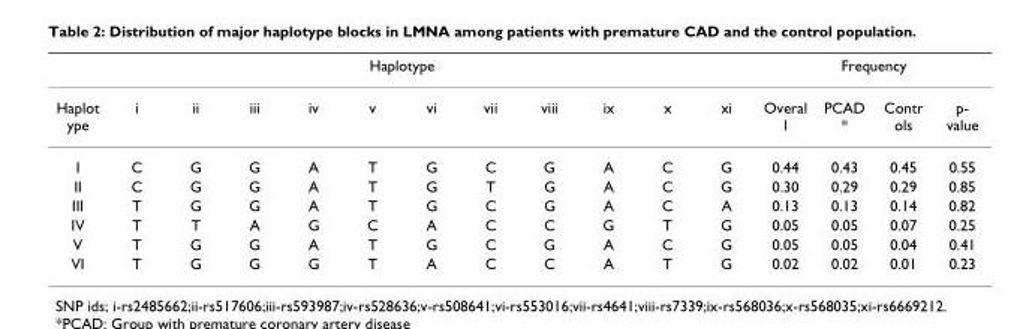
<table><thead><tr><td colspan="12">Haplotype</td><td colspan="4">Frequency</td></tr><tr><td>Haplot ype</td><td>i</td><td>ii</td><td>iii</td><td>iv</td><td>v</td><td>vi</td><td>vii</td><td>viii</td><td>ix</td><td>x</td><td>xi</td><td>Overal l</td><td>PCAD *</td><td>Contr ols</td><td>p- value</td></tr></thead><tbody><tr><td>I</td><td>C</td><td>G</td><td>G</td><td>A</td><td>T</td><td>G</td><td>C</td><td>G</td><td>A</td><td>C</td><td>G</td><td>0.44</td><td>0.43</td><td>0.45</td><td>0.55</td></tr><tr><td>II</td><td>C</td><td>G</td><td>G</td><td>A</td><td>T</td><td>G</td><td>T</td><td>G</td><td>A</td><td>C</td><td>G</td><td>0.30</td><td>0.29</td><td>0.29</td><td>0.85</td></tr><tr><td>III</td><td>T</td><td>G</td><td>G</td><td>A</td><td>T</td><td>G</td><td>C</td><td>G</td><td>A</td><td>C</td><td>A</td><td>0.13</td><td>0.13</td><td>0.14</td><td>0.82</td></tr><tr><td>IV</td><td>T</td><td>T</td><td>A</td><td>G</td><td>C</td><td>A</td><td>C</td><td>C</td><td>G</td><td>T</td><td>G</td><td>0.05</td><td>0.05</td><td>0.07</td><td>0.25</td></tr><tr><td>V</td><td>T</td><td>G</td><td>G</td><td>A</td><td>T</td><td>G</td><td>C</td><td>G</td><td>A</td><td>C</td><td>G</td><td>0.05</td><td>0.05</td><td>0.04</td><td>0.41</td></tr><tr><td>VI</td><td>T</td><td>G</td><td>G</td><td>G</td><td>T</td><td>A</td><td>C</td><td>C</td><td>A</td><td>T</td><td>G</td><td>0.02</td><td>0.02</td><td>0.01</td><td>0.23</td></tr></tbody></table>